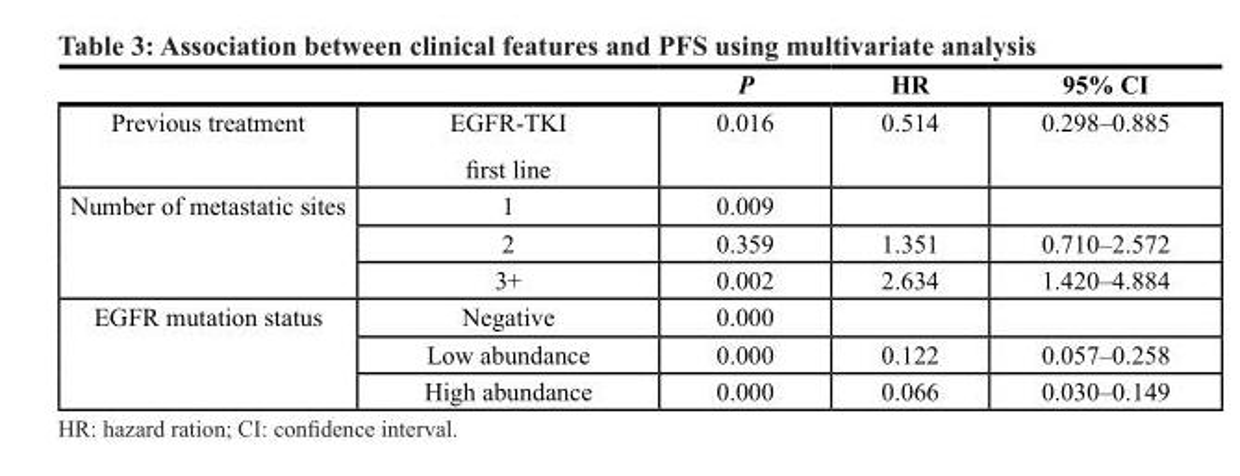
<table><thead><tr><td></td><td></td><td>P</td><td>HR</td><td>95% CI</td></tr></thead><tbody><tr><td>Previous treatment</td><td>EGFR-TKI first line</td><td>0.016</td><td>0.514</td><td>0.298–0.885</td></tr><tr><td rowspan="3">Number of metastatic sites</td><td>1</td><td>0.009</td><td></td><td></td></tr><tr><td>2</td><td>0.359</td><td>1.351</td><td>0.710–2.572</td></tr><tr><td>3+</td><td>0.002</td><td>2.634</td><td>1.420–4.884</td></tr><tr><td rowspan="3">EGFR mutation status</td><td>Negative</td><td>0.000</td><td></td><td></td></tr><tr><td>Low abundance</td><td>0.000</td><td>0.122</td><td>0.057–0.258</td></tr><tr><td>High abundance</td><td>0.000</td><td>0.066</td><td>0.030–0.149</td></tr></tbody></table>